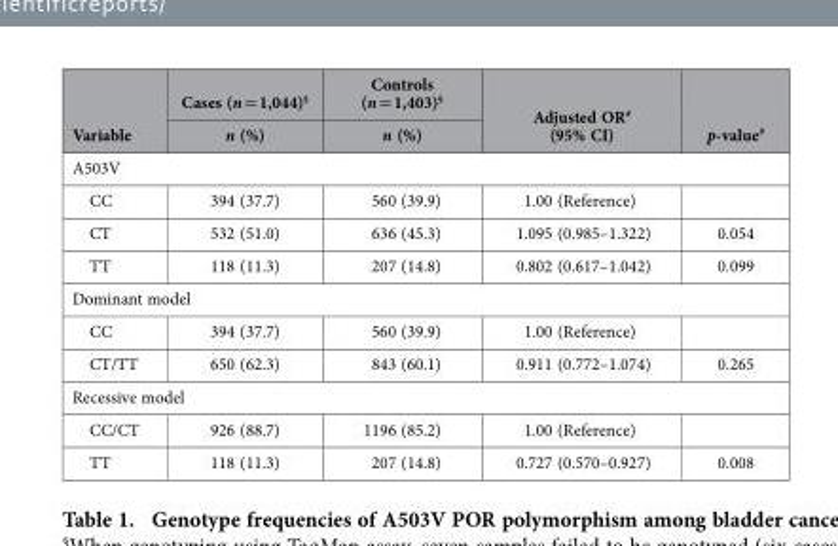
<table><thead><tr><td rowspan="2">Variable</td><td rowspan="2">Cases (n = 1,044)§ n (%)</td><td rowspan="2">Controls (n = 1,403)§ n (%)</td><td rowspan="2">Adjusted OR# (95% CI)</td><td rowspan="2">p-value#</td></tr><tr></tr></thead><tbody><tr><td colspan="5">A503V</td></tr><tr><td>CC</td><td>394 (37.7)</td><td>560 (39.9)</td><td>1.00 (Reference)</td><td></td></tr><tr><td>CT</td><td>532 (51.0)</td><td>636 (45.3)</td><td>1.095 (0.985–1.322)</td><td>0.054</td></tr><tr><td>TT</td><td>118 (11.3)</td><td>207 (14.8)</td><td>0.802 (0.617–1.042)</td><td>0.099</td></tr><tr><td colspan="5">Dominant model</td></tr><tr><td>CC</td><td>394 (37.7)</td><td>560 (39.9)</td><td>1.00 (Reference)</td><td></td></tr><tr><td>CT/TT</td><td>650 (62.3)</td><td>843 (60.1)</td><td>0.911 (0.772–1.074)</td><td>0.265</td></tr><tr><td colspan="5">Recessive model</td></tr><tr><td>CC/CT</td><td>926 (88.7)</td><td>1196 (85.2)</td><td>1.00 (Reference)</td><td></td></tr><tr><td>TT</td><td>118 (11.3)</td><td>207 (14.8)</td><td>0.727 (0.570–0.927)</td><td>0.008</td></tr></tbody></table>